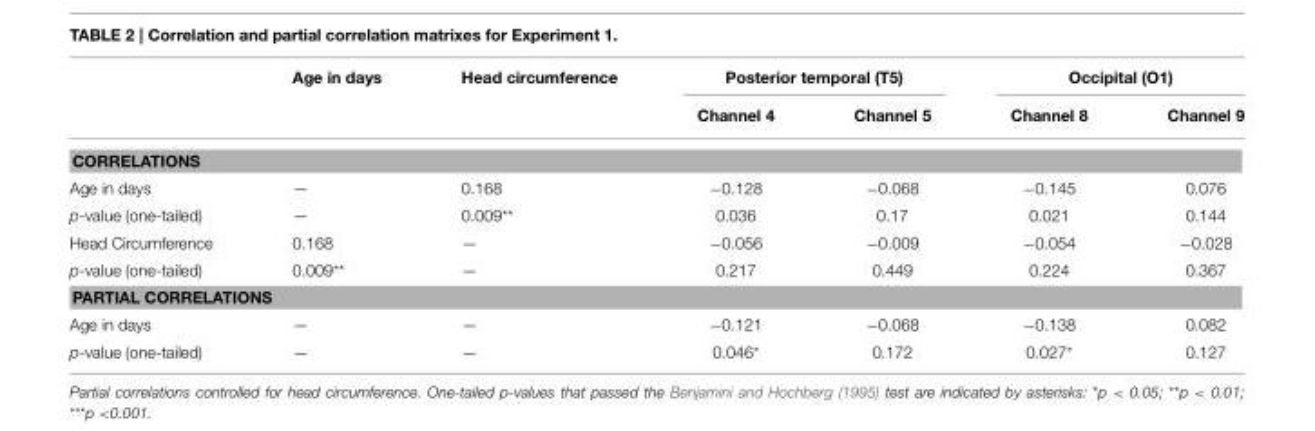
<table><thead><tr><td rowspan="2"></td><td rowspan="2">Age in days</td><td rowspan="2">Head circumference</td><td colspan="2">Posterior temporal (T5)</td><td colspan="2">Occipital (O1)</td></tr><tr><td>Channel 4</td><td>Channel 5</td><td>Channel 8</td><td>Channel 9</td></tr></thead><tbody><tr><td colspan="7">CORRELATIONS</td></tr><tr><td>Age in days</td><td>—</td><td>0.168</td><td>−0.128</td><td>−0.068</td><td>−0.145</td><td>0.076</td></tr><tr><td>p-value (one-tailed)</td><td>—</td><td>0.009**</td><td>0.036</td><td>0.17</td><td>0.021</td><td>0.144</td></tr><tr><td>Head Circumference</td><td>0.168</td><td>—</td><td>−0.056</td><td>−0.009</td><td>−0.054</td><td>−0.028</td></tr><tr><td>p-value (one-tailed)</td><td>0.009**</td><td>—</td><td>0.217</td><td>0.449</td><td>0.224</td><td>0.367</td></tr><tr><td colspan="7">PARTIAL CORRELATIONS</td></tr><tr><td>Age in days</td><td>—</td><td>—</td><td>−0.121</td><td>−0.068</td><td>−0.138</td><td>0.082</td></tr><tr><td>p-value (one-tailed)</td><td>—</td><td>—</td><td>0.046*</td><td>0.172</td><td>0.027*</td><td>0.127</td></tr></tbody></table>